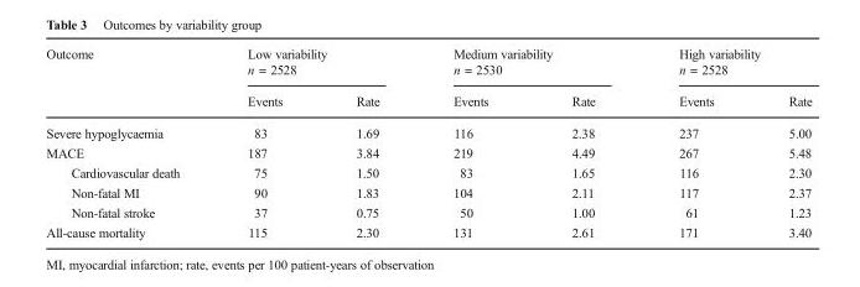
<table><thead><tr><td rowspan="2">Outcome</td><td colspan="2">Low variability n = 2528</td><td colspan="2">Medium variability n = 2530</td><td colspan="2">High variability n = 2528</td></tr><tr><td>Events</td><td>Rate</td><td>Events</td><td>Rate</td><td>Events</td><td>Rate</td></tr></thead><tbody><tr><td>Severe hypoglycaemia</td><td>83</td><td>1.69</td><td>116</td><td>2.38</td><td>237</td><td>5.00</td></tr><tr><td>MACE</td><td>187</td><td>3.84</td><td>219</td><td>4.49</td><td>267</td><td>5.48</td></tr><tr><td>Cardiovascular death</td><td>75</td><td>1.50</td><td>83</td><td>1.65</td><td>116</td><td>2.30</td></tr><tr><td>Non-fatal MI</td><td>90</td><td>1.83</td><td>104</td><td>2.11</td><td>117</td><td>2.37</td></tr><tr><td>Non-fatal stroke</td><td>37</td><td>0.75</td><td>50</td><td>1.00</td><td>61</td><td>1.23</td></tr><tr><td>All-cause mortality</td><td>115</td><td>2.30</td><td>131</td><td>2.61</td><td>171</td><td>3.40</td></tr></tbody></table>